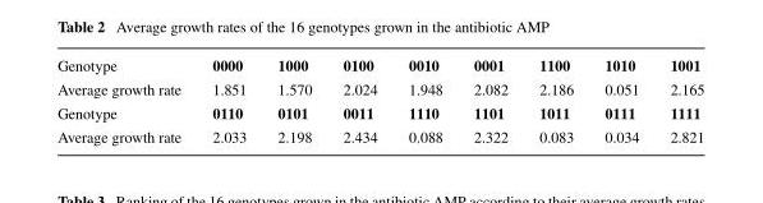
<table><tbody><tr><td>Genotype</td><td>0000</td><td>1000</td><td>0100</td><td>0010</td><td>0001</td><td>1100</td><td>1010</td><td>1001</td></tr><tr><td>Average growth rate</td><td>1.851</td><td>1.570</td><td>2.024</td><td>1.948</td><td>2.082</td><td>2.186</td><td>0.051</td><td>2.165</td></tr><tr><td>Genotype</td><td>0110</td><td>0101</td><td>0011</td><td>1110</td><td>1101</td><td>1011</td><td>0111</td><td>1111</td></tr><tr><td>Average growth rate</td><td>2.033</td><td>2.198</td><td>2.434</td><td>0.088</td><td>2.322</td><td>0.083</td><td>0.034</td><td>2.821</td></tr></tbody></table>